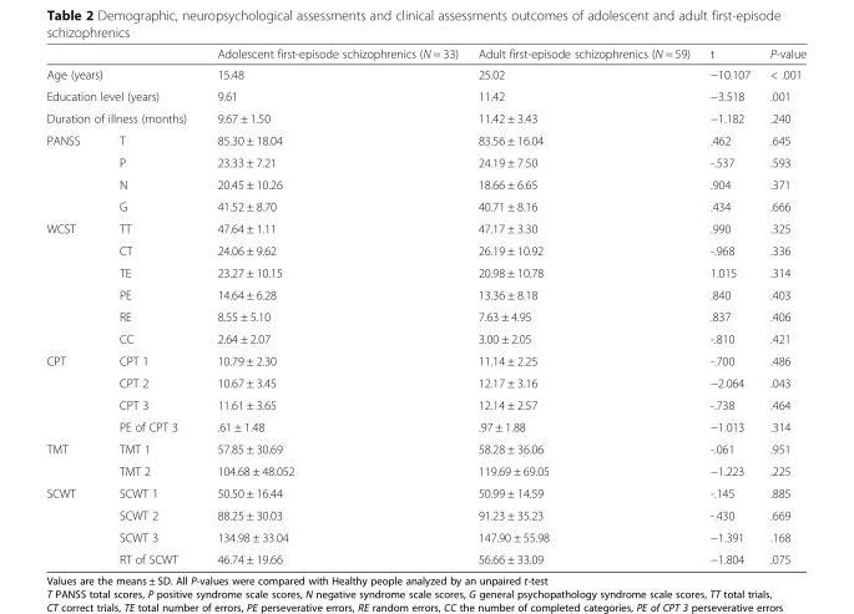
<table><thead><tr><td></td><td></td><td>Adolescent first-episode schizophrenics (N = 33)</td><td>Adult first-episode schizophrenics (N = 59)</td><td>t</td><td>P-value</td></tr></thead><tbody><tr><td colspan="2">Age (years)</td><td>15.48</td><td>25.02</td><td>−10.107</td><td>&lt; .001</td></tr><tr><td colspan="2">Education level (years)</td><td>9.61</td><td>11.42</td><td>−3.518</td><td>.001</td></tr><tr><td colspan="2">Duration of illness (months)</td><td>9.67 ± 1.50</td><td>11.42 ± 3.43</td><td>−1.182</td><td>.240</td></tr><tr><td rowspan="4">PANSS</td><td>T</td><td>85.30 ± 18.04</td><td>83.56 ± 16.04</td><td>.462</td><td>.645</td></tr><tr><td>P</td><td>23.33 ± 7.21</td><td>24.19 ± 7.50</td><td>-.537</td><td>.593</td></tr><tr><td>N</td><td>20.45 ± 10.26</td><td>18.66 ± 6.65</td><td>.904</td><td>.371</td></tr><tr><td>G</td><td>41.52 ± 8.70</td><td>40.71 ± 8.16</td><td>.434</td><td>.666</td></tr><tr><td rowspan="6">WCST</td><td>TT</td><td>47.64 ± 1.11</td><td>47.17 ± 3.30</td><td>.990</td><td>.325</td></tr><tr><td>CT</td><td>24.06 ± 9.62</td><td>26.19 ± 10.92</td><td>-.968</td><td>.336</td></tr><tr><td>TE</td><td>23.27 ± 10.15</td><td>20.98 ± 10.78</td><td>1.015</td><td>.314</td></tr><tr><td>PE</td><td>14.64 ± 6.28</td><td>13.36 ± 8.18</td><td>.840</td><td>.403</td></tr><tr><td>RE</td><td>8.55 ± 5.10</td><td>7.63 ± 4.95</td><td>.837</td><td>.406</td></tr><tr><td>CC</td><td>2.64 ± 2.07</td><td>3.00 ± 2.05</td><td>-.810</td><td>.421</td></tr><tr><td rowspan="4">CPT</td><td>CPT 1</td><td>10.79 ± 2.30</td><td>11.14 ± 2.25</td><td>-.700</td><td>.486</td></tr><tr><td>CPT 2</td><td>10.67 ± 3.45</td><td>12.17 ± 3.16</td><td>−2.064</td><td>.043</td></tr><tr><td>CPT 3</td><td>11.61 ± 3.65</td><td>12.14 ± 2.57</td><td>-.738</td><td>.464</td></tr><tr><td>PE of CPT 3</td><td>.61 ± 1.48</td><td>.97 ± 1.88</td><td>−1.013</td><td>.314</td></tr><tr><td rowspan="2">TMT</td><td>TMT 1</td><td>57.85 ± 30.69</td><td>58.28 ± 36.06</td><td>-.061</td><td>.951</td></tr><tr><td>TMT 2</td><td>104.68 ± 48.052</td><td>119.69 ± 69.05</td><td>−1.223</td><td>.225</td></tr><tr><td rowspan="4">SCWT</td><td>SCWT 1</td><td>50.50 ± 16.44</td><td>50.99 ± 14.59</td><td>-.145</td><td>.885</td></tr><tr><td>SCWT 2</td><td>88.25 ± 30.03</td><td>91.23 ± 35.23</td><td>-.430</td><td>.669</td></tr><tr><td>SCWT 3</td><td>134.98 ± 33.04</td><td>147.90 ± 55.98</td><td>−1.391</td><td>.168</td></tr><tr><td>RT of SCWT</td><td>46.74 ± 19.66</td><td>56.66 ± 33.09</td><td>−1.804</td><td>.075</td></tr></tbody></table>